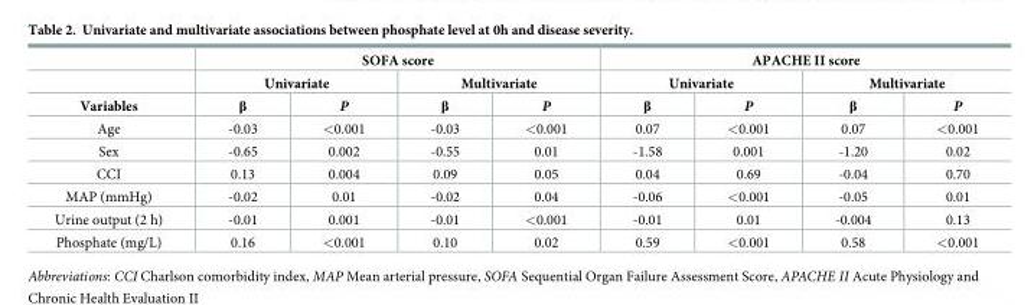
<table><thead><tr><td rowspan="3">Variables</td><td colspan="4">SOFA score</td><td colspan="4">APACHE II score</td></tr><tr><td colspan="2">Univariate</td><td colspan="2">Multivariate</td><td colspan="2">Univariate</td><td colspan="2">Multivariate</td></tr><tr><td>β</td><td>P</td><td>β</td><td>P</td><td>β</td><td>P</td><td>β</td><td>P</td></tr></thead><tbody><tr><td>Age</td><td>-0.03</td><td>&lt;0.001</td><td>-0.03</td><td>&lt;0.001</td><td>0.07</td><td>&lt;0.001</td><td>0.07</td><td>&lt;0.001</td></tr><tr><td>Sex</td><td>-0.65</td><td>0.002</td><td>-0.55</td><td>0.01</td><td>-1.58</td><td>0.001</td><td>-1.20</td><td>0.02</td></tr><tr><td>CCI</td><td>0.13</td><td>0.004</td><td>0.09</td><td>0.05</td><td>0.04</td><td>0.69</td><td>-0.04</td><td>0.70</td></tr><tr><td>MAP (mmHg)</td><td>-0.02</td><td>0.01</td><td>-0.02</td><td>0.04</td><td>-0.06</td><td>&lt;0.001</td><td>-0.05</td><td>0.01</td></tr><tr><td>Urine output (2 h)</td><td>-0.01</td><td>0.001</td><td>-0.01</td><td>&lt;0.001</td><td>-0.01</td><td>0.01</td><td>-0.004</td><td>0.13</td></tr><tr><td>Phosphate (mg/L)</td><td>0.16</td><td>&lt;0.001</td><td>0.10</td><td>0.02</td><td>0.59</td><td>&lt;0.001</td><td>0.58</td><td>&lt;0.001</td></tr></tbody></table>